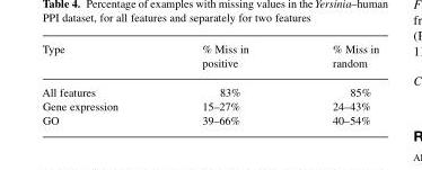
<table><thead><tr><td>Type</td><td>% Miss in positive</td><td>% Miss in random</td></tr></thead><tbody><tr><td>All features</td><td>83%</td><td>85%</td></tr><tr><td>Gene expression</td><td>15–27%</td><td>24–43%</td></tr><tr><td>GO</td><td>39–66%</td><td>40–54%</td></tr></tbody></table>